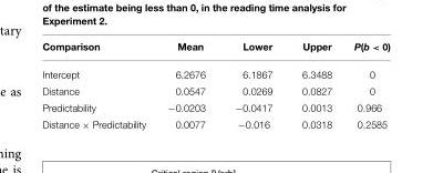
<table><thead><tr><td>Comparison</td><td>Mean</td><td>Lower</td><td>Upper</td><td>P(b &lt; 0)</td></tr></thead><tbody><tr><td>Intercept</td><td>6.2676</td><td>6.1867</td><td>6.3488</td><td>0</td></tr><tr><td>Distance</td><td>0.0547</td><td>0.0269</td><td>0.0827</td><td>0</td></tr><tr><td>Predictability</td><td>−0.0203</td><td>−0.0417</td><td>0.0013</td><td>0.966</td></tr><tr><td>Distance × Predictability</td><td>0.0077</td><td>−0.016</td><td>0.0318</td><td>0.2585</td></tr></tbody></table>